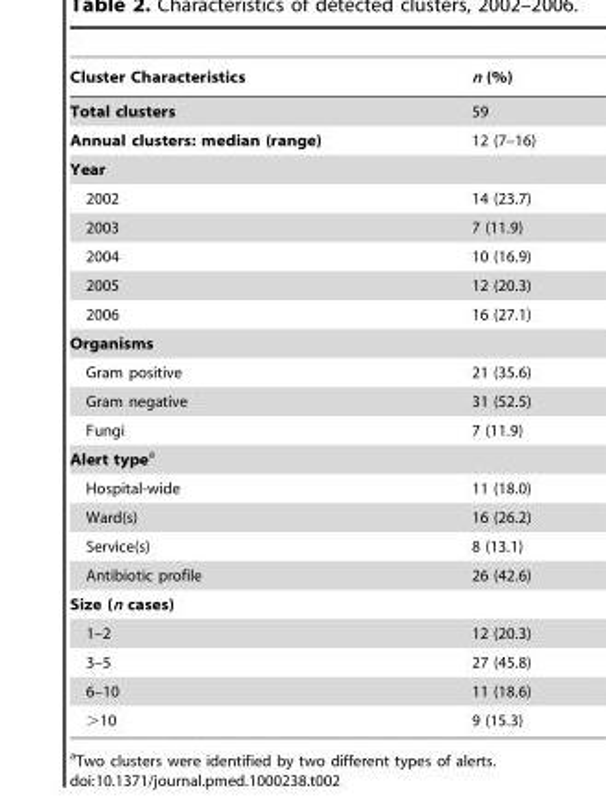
<table><thead><tr><td>Cluster Characteristics</td><td>n (%)</td></tr></thead><tbody><tr><td>Total clusters</td><td>59</td></tr><tr><td>Annual clusters: median (range)</td><td>12 (7–16)</td></tr><tr><td colspan="2">Year</td></tr><tr><td>2002</td><td>14 (23.7)</td></tr><tr><td>2003</td><td>7 (11.9)</td></tr><tr><td>2004</td><td>10 (16.9)</td></tr><tr><td>2005</td><td>12 (20.3)</td></tr><tr><td>2006</td><td>16 (27.1)</td></tr><tr><td colspan="2">Organisms</td></tr><tr><td>Gram positive</td><td>21 (35.6)</td></tr><tr><td>Gram negative</td><td>31 (52.5)</td></tr><tr><td>Fungi</td><td>7 (11.9)</td></tr><tr><td colspan="2">Alert typea</td></tr><tr><td>Hospital-wide</td><td>11 (18.0)</td></tr><tr><td>Ward(s)</td><td>16 (26.2)</td></tr><tr><td>Service(s)</td><td>8 (13.1)</td></tr><tr><td>Antibiotic profile</td><td>26 (42.6)</td></tr><tr><td colspan="2">Size (n cases)</td></tr><tr><td>1–2</td><td>12 (20.3)</td></tr><tr><td>3–5</td><td>27 (45.8)</td></tr><tr><td>6–10</td><td>11 (18.6)</td></tr><tr><td>&gt;10</td><td>9 (15.3)</td></tr></tbody></table>